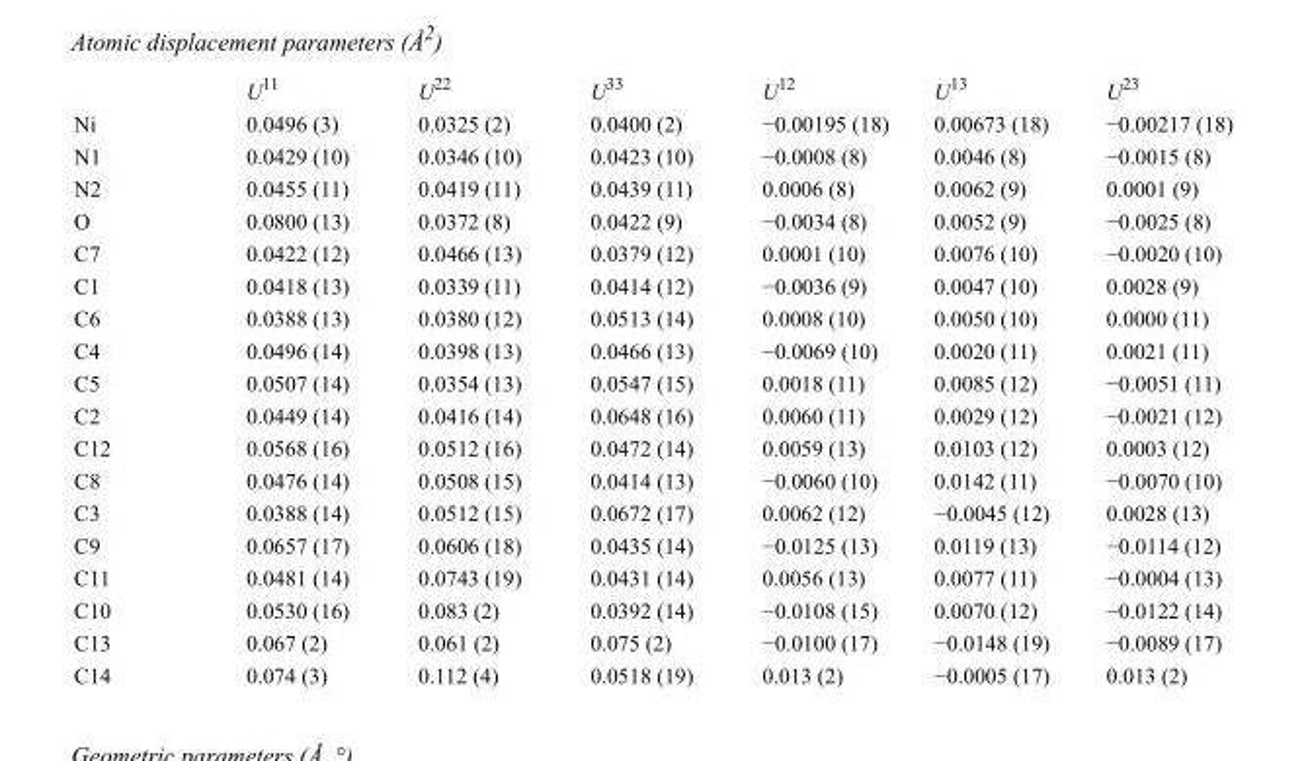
<table><thead><tr><td></td><td>U<sup>11</sup></td><td>U<sup>22</sup></td><td>U<sup>33</sup></td><td>U<sup>12</sup></td><td>U<sup>13</sup></td><td>U<sup>23</sup></td></tr></thead><tbody><tr><td>Ni</td><td>0.0496 (3)</td><td>0.0325 (2)</td><td>0.0400 (2)</td><td>−0.00195 (18)</td><td>0.00673 (18)</td><td>−0.00217 (18)</td></tr><tr><td>N1</td><td>0.0429 (10)</td><td>0.0346 (10)</td><td>0.0423 (10)</td><td>−0.0008 (8)</td><td>0.0046 (8)</td><td>−0.0015 (8)</td></tr><tr><td>N2</td><td>0.0455 (11)</td><td>0.0419 (11)</td><td>0.0439 (11)</td><td>0.0006 (8)</td><td>0.0062 (9)</td><td>0.0001 (9)</td></tr><tr><td>O</td><td>0.0800 (13)</td><td>0.0372 (8)</td><td>0.0422 (9)</td><td>−0.0034 (8)</td><td>0.0052 (9)</td><td>−0.0025 (8)</td></tr><tr><td>C7</td><td>0.0422 (12)</td><td>0.0466 (13)</td><td>0.0379 (12)</td><td>0.0001 (10)</td><td>0.0076 (10)</td><td>−0.0020 (10)</td></tr><tr><td>C1</td><td>0.0418 (13)</td><td>0.0339 (11)</td><td>0.0414 (12)</td><td>−0.0036 (9)</td><td>0.0047 (10)</td><td>0.0028 (9)</td></tr><tr><td>C6</td><td>0.0388 (13)</td><td>0.0380 (12)</td><td>0.0513 (14)</td><td>0.0008 (10)</td><td>0.0050 (10)</td><td>0.0000 (11)</td></tr><tr><td>C4</td><td>0.0496 (14)</td><td>0.0398 (13)</td><td>0.0466 (13)</td><td>−0.0069 (10)</td><td>0.0020 (11)</td><td>0.0021 (11)</td></tr><tr><td>C5</td><td>0.0507 (14)</td><td>0.0354 (13)</td><td>0.0547 (15)</td><td>0.0018 (11)</td><td>0.0085 (12)</td><td>−0.0051 (11)</td></tr><tr><td>C2</td><td>0.0449 (14)</td><td>0.0416 (14)</td><td>0.0648 (16)</td><td>0.0060 (11)</td><td>0.0029 (12)</td><td>−0.0021 (12)</td></tr><tr><td>C12</td><td>0.0568 (16)</td><td>0.0512 (16)</td><td>0.0472 (14)</td><td>0.0059 (13)</td><td>0.0103 (12)</td><td>0.0003 (12)</td></tr><tr><td>C8</td><td>0.0476 (14)</td><td>0.0508 (15)</td><td>0.0414 (13)</td><td>−0.0060 (10)</td><td>0.0142 (11)</td><td>−0.0070 (10)</td></tr><tr><td>C3</td><td>0.0388 (14)</td><td>0.0512 (15)</td><td>0.0672 (17)</td><td>0.0062 (12)</td><td>−0.0045 (12)</td><td>0.0028 (13)</td></tr><tr><td>C9</td><td>0.0657 (17)</td><td>0.0606 (18)</td><td>0.0435 (14)</td><td>−0.0125 (13)</td><td>0.0119 (13)</td><td>−0.0114 (12)</td></tr><tr><td>C11</td><td>0.0481 (14)</td><td>0.0743 (19)</td><td>0.0431 (14)</td><td>0.0056 (13)</td><td>0.0077 (11)</td><td>−0.0004 (13)</td></tr><tr><td>C10</td><td>0.0530 (16)</td><td>0.083 (2)</td><td>0.0392 (14)</td><td>−0.0108 (15)</td><td>0.0070 (12)</td><td>−0.0122 (14)</td></tr><tr><td>C13</td><td>0.067 (2)</td><td>0.061 (2)</td><td>0.075 (2)</td><td>−0.0100 (17)</td><td>−0.0148 (19)</td><td>−0.0089 (17)</td></tr><tr><td>C14</td><td>0.074 (3)</td><td>0.112 (4)</td><td>0.0518 (19)</td><td>0.013 (2)</td><td>−0.0005 (17)</td><td>0.013 (2)</td></tr></tbody></table>